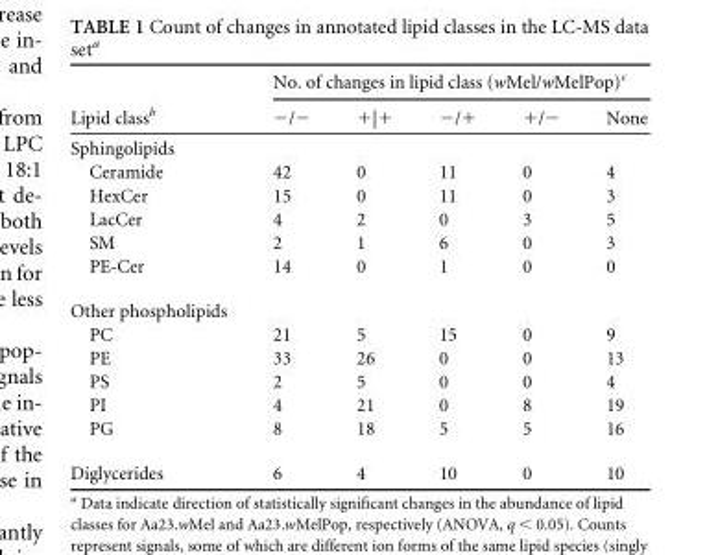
<table><thead><tr><td rowspan="2">Lipid class<sup>b</sup></td><td colspan="5">No. of changes in lipid class (wMel/wMelPop)<sup>c</sup></td></tr><tr><td>−/−</td><td>+|+</td><td>−/+</td><td>+/−</td><td>None</td></tr></thead><tbody><tr><td colspan="6">Sphingolipids</td></tr><tr><td>Ceramide</td><td>42</td><td>0</td><td>11</td><td>0</td><td>4</td></tr><tr><td>HexCer</td><td>15</td><td>0</td><td>11</td><td>0</td><td>3</td></tr><tr><td>LacCer</td><td>4</td><td>2</td><td>0</td><td>3</td><td>5</td></tr><tr><td>SM</td><td>2</td><td>1</td><td>6</td><td>0</td><td>3</td></tr><tr><td>PE-Cer</td><td>14</td><td>0</td><td>1</td><td>0</td><td>0</td></tr><tr><td colspan="6">Other phospholipids</td></tr><tr><td>PC</td><td>21</td><td>5</td><td>15</td><td>0</td><td>9</td></tr><tr><td>PE</td><td>33</td><td>26</td><td>0</td><td>0</td><td>13</td></tr><tr><td>PS</td><td>2</td><td>5</td><td>0</td><td>0</td><td>4</td></tr><tr><td>PI</td><td>4</td><td>21</td><td>0</td><td>8</td><td>19</td></tr><tr><td>PG</td><td>8</td><td>18</td><td>5</td><td>5</td><td>16</td></tr><tr><td>Diglycerides</td><td>6</td><td>4</td><td>10</td><td>0</td><td>10</td></tr></tbody></table>